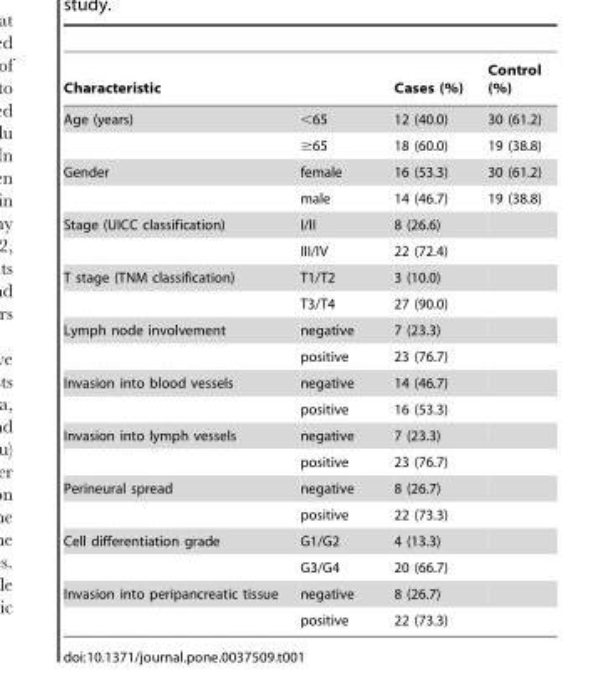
<table><thead><tr><td colspan="2">Characteristic</td><td rowspan="2">Cases (%) 12 (40.0)</td><td rowspan="2">Control (%) 30 (61.2)</td></tr><tr><td>Age (years)</td><td>&lt;65</td></tr></thead><tbody><tr><td></td><td>≥65</td><td>18 (60.0)</td><td>19 (38.8)</td></tr><tr><td rowspan="2">Gender</td><td>female</td><td>16 (53.3)</td><td>30 (61.2)</td></tr><tr><td>male</td><td>14 (46.7)</td><td>19 (38.8)</td></tr><tr><td rowspan="2">Stage (UICC classification)</td><td>I/II</td><td>8 (26.6)</td><td></td></tr><tr><td>III/IV</td><td>22 (72.4)</td><td></td></tr><tr><td rowspan="2">T stage (TNM classification)</td><td>T1/T2</td><td>3 (10.0)</td><td></td></tr><tr><td>T3/T4</td><td>27 (90.0)</td><td></td></tr><tr><td rowspan="2">Lymph node involvement</td><td>negative</td><td>7 (23.3)</td><td></td></tr><tr><td>positive</td><td>23 (76.7)</td><td></td></tr><tr><td rowspan="2">Invasion into blood vessels</td><td>negative</td><td>14 (46.7)</td><td></td></tr><tr><td>positive</td><td>16 (53.3)</td><td></td></tr><tr><td rowspan="2">Invasion into lymph vessels</td><td>negative</td><td>7 (23.3)</td><td></td></tr><tr><td>positive</td><td>23 (76.7)</td><td></td></tr><tr><td rowspan="2">Perineural spread</td><td>negative</td><td>8 (26.7)</td><td></td></tr><tr><td>positive</td><td>22 (73.3)</td><td></td></tr><tr><td rowspan="2">Cell differentiation grade</td><td>G1/G2</td><td>4 (13.3)</td><td></td></tr><tr><td>G3/G4</td><td>20 (66.7)</td><td></td></tr><tr><td rowspan="2">Invasion into peripancreatic tissue</td><td>negative</td><td>8 (26.7)</td><td></td></tr><tr><td>positive</td><td>22 (73.3)</td><td></td></tr></tbody></table>